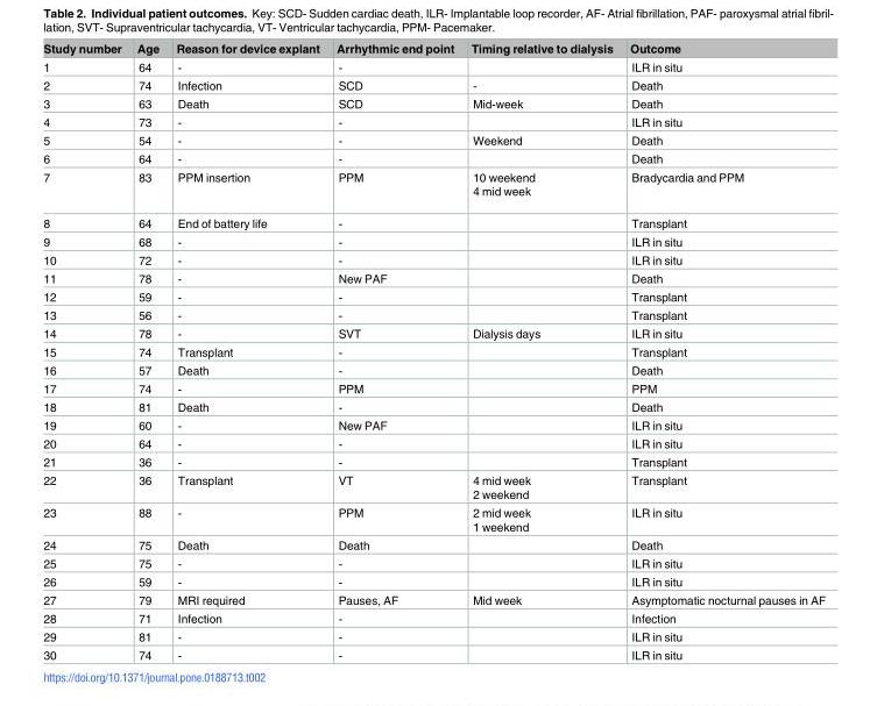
<table><thead><tr><td>Study number</td><td>Age</td><td>Reason for device explant</td><td>Arrhythmic end point</td><td>Timing relative to dialysis</td><td>Outcome</td></tr></thead><tbody><tr><td>1</td><td>64</td><td>-</td><td>-</td><td></td><td>ILR in situ</td></tr><tr><td>2</td><td>74</td><td>Infection</td><td>SCD</td><td>-</td><td>Death</td></tr><tr><td>3</td><td>63</td><td>Death</td><td>SCD</td><td>Mid-week</td><td>Death</td></tr><tr><td>4</td><td>73</td><td>-</td><td>-</td><td></td><td>ILR in situ</td></tr><tr><td>5</td><td>54</td><td>-</td><td>-</td><td>Weekend</td><td>Death</td></tr><tr><td>6</td><td>64</td><td>-</td><td>-</td><td></td><td>Death</td></tr><tr><td>7</td><td>83</td><td>PPM insertion</td><td>PPM</td><td>10 weekend 4 mid week</td><td>Bradycardia and PPM</td></tr><tr><td>8</td><td>64</td><td>End of battery life</td><td>-</td><td></td><td>Transplant</td></tr><tr><td>9</td><td>68</td><td>-</td><td>-</td><td></td><td>ILR in situ</td></tr><tr><td>10</td><td>72</td><td>-</td><td>-</td><td></td><td>ILR in situ</td></tr><tr><td>11</td><td>78</td><td>-</td><td>New PAF</td><td></td><td>Death</td></tr><tr><td>12</td><td>59</td><td>-</td><td>-</td><td></td><td>Transplant</td></tr><tr><td>13</td><td>56</td><td>-</td><td>-</td><td></td><td>Transplant</td></tr><tr><td>14</td><td>78</td><td>-</td><td>SVT</td><td>Dialysis days</td><td>ILR in situ</td></tr><tr><td>15</td><td>74</td><td>Transplant</td><td>-</td><td></td><td>Transplant</td></tr><tr><td>16</td><td>57</td><td>Death</td><td>-</td><td></td><td>Death</td></tr><tr><td>17</td><td>74</td><td>-</td><td>PPM</td><td></td><td>PPM</td></tr><tr><td>18</td><td>81</td><td>Death</td><td>-</td><td></td><td>Death</td></tr><tr><td>19</td><td>60</td><td>-</td><td>New PAF</td><td></td><td>ILR in situ</td></tr><tr><td>20</td><td>64</td><td>-</td><td>-</td><td></td><td>ILR in situ</td></tr><tr><td>21</td><td>36</td><td>-</td><td>-</td><td></td><td>Transplant</td></tr><tr><td>22</td><td>36</td><td>Transplant</td><td>VT</td><td>4 mid week 2 weekend</td><td>Transplant</td></tr><tr><td>23</td><td>88</td><td>-</td><td>PPM</td><td>2 mid week 1 weekend</td><td>ILR in situ</td></tr><tr><td>24</td><td>75</td><td>Death</td><td>Death</td><td></td><td>Death</td></tr><tr><td>25</td><td>75</td><td>-</td><td>-</td><td></td><td>ILR in situ</td></tr><tr><td>26</td><td>59</td><td>-</td><td>-</td><td></td><td>ILR in situ</td></tr><tr><td>27</td><td>79</td><td>MRI required</td><td>Pauses, AF</td><td>Mid week</td><td>Asymptomatic nocturnal pauses in AF</td></tr><tr><td>28</td><td>71</td><td>Infection</td><td>-</td><td></td><td>Infection</td></tr><tr><td>29</td><td>81</td><td>-</td><td>-</td><td></td><td>ILR in situ</td></tr><tr><td>30</td><td>74</td><td>-</td><td>-</td><td></td><td>ILR in situ</td></tr></tbody></table>